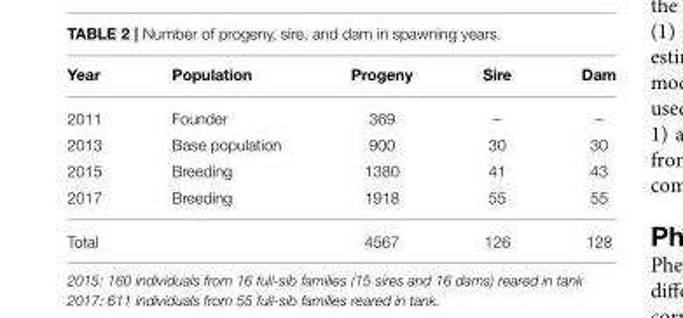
<table><thead><tr><td>Year</td><td>Population</td><td>Progeny</td><td>Sire</td><td>Dam</td></tr></thead><tbody><tr><td>2011</td><td>Founder</td><td>369</td><td>–</td><td>–</td></tr><tr><td>2013</td><td>Base population</td><td>900</td><td>30</td><td>30</td></tr><tr><td>2015</td><td>Breeding</td><td>1380</td><td>41</td><td>43</td></tr><tr><td>2017</td><td>Breeding</td><td>1918</td><td>55</td><td>55</td></tr><tr><td>Total</td><td></td><td>4567</td><td>126</td><td>128</td></tr></tbody></table>